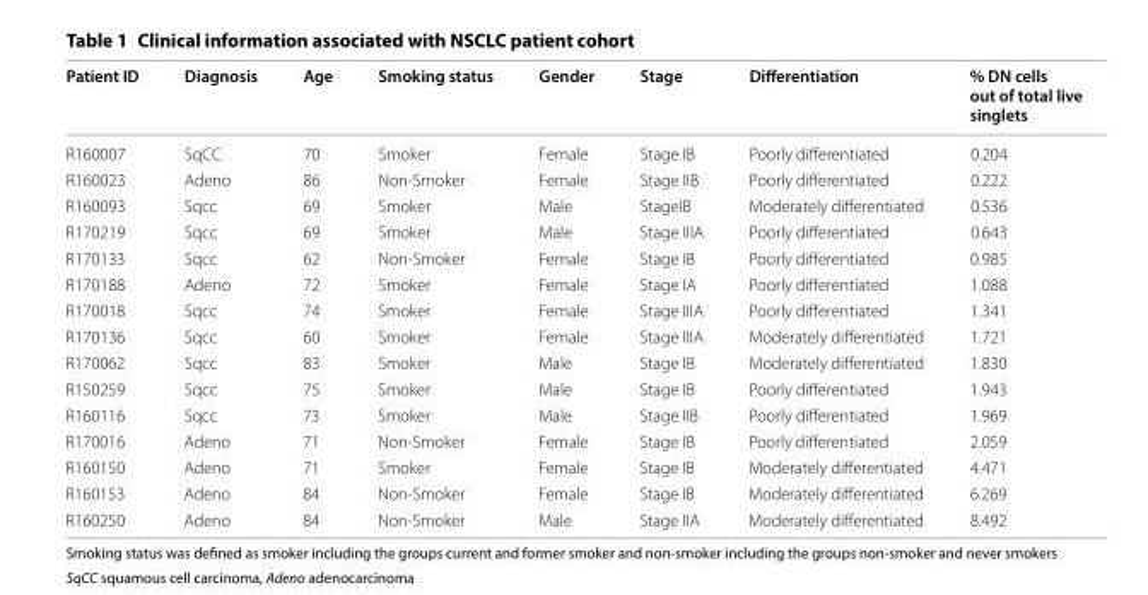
<table><thead><tr><td>Patient ID</td><td>Diagnosis</td><td>Age</td><td>Smoking status</td><td>Gender</td><td>Stage</td><td>Differentiation</td><td>% DN cells out of total live singlets</td></tr></thead><tbody><tr><td>R160007</td><td>SqCC</td><td>70</td><td>Smoker</td><td>Female</td><td>Stage IB</td><td>Poorly differentiated</td><td>0.204</td></tr><tr><td>R160023</td><td>Adeno</td><td>86</td><td>Non-Smoker</td><td>Female</td><td>Stage IIB</td><td>Poorly differentiated</td><td>0.222</td></tr><tr><td>R160093</td><td>Sqcc</td><td>69</td><td>Smoker</td><td>Male</td><td>StageIB</td><td>Moderately differentiated</td><td>0.536</td></tr><tr><td>R170219</td><td>Sqcc</td><td>69</td><td>Smoker</td><td>Male</td><td>Stage IIIA</td><td>Poorly differentiated</td><td>0.643</td></tr><tr><td>R170133</td><td>Sqcc</td><td>62</td><td>Non-Smoker</td><td>Female</td><td>Stage IB</td><td>Poorly differentiated</td><td>0.985</td></tr><tr><td>R170188</td><td>Adeno</td><td>72</td><td>Smoker</td><td>Female</td><td>Stage IA</td><td>Poorly differentiated</td><td>1.088</td></tr><tr><td>R170018</td><td>Sqcc</td><td>74</td><td>Smoker</td><td>Female</td><td>Stage IIIA</td><td>Poorly differentiated</td><td>1.341</td></tr><tr><td>R170136</td><td>Sqcc</td><td>60</td><td>Smoker</td><td>Female</td><td>Stage IIIA</td><td>Moderately differentiated</td><td>1.721</td></tr><tr><td>R170062</td><td>Sqcc</td><td>83</td><td>Smoker</td><td>Male</td><td>Stage IB</td><td>Moderately differentiated</td><td>1.830</td></tr><tr><td>R150259</td><td>Sqcc</td><td>75</td><td>Smoker</td><td>Male</td><td>Stage IB</td><td>Poorly differentiated</td><td>1.943</td></tr><tr><td>R160116</td><td>Sqcc</td><td>73</td><td>Smoker</td><td>Male</td><td>Stage IIB</td><td>Poorly differentiated</td><td>1.969</td></tr><tr><td>R170016</td><td>Adeno</td><td>71</td><td>Non-Smoker</td><td>Female</td><td>Stage IB</td><td>Poorly differentiated</td><td>2.059</td></tr><tr><td>R160150</td><td>Adeno</td><td>71</td><td>Smoker</td><td>Female</td><td>Stage IB</td><td>Moderately differentiated</td><td>4.471</td></tr><tr><td>R160153</td><td>Adeno</td><td>84</td><td>Non-Smoker</td><td>Female</td><td>Stage IB</td><td>Moderately differentiated</td><td>6.269</td></tr><tr><td>R160250</td><td>Adeno</td><td>84</td><td>Non-Smoker</td><td>Male</td><td>Stage IIA</td><td>Moderately differentiated</td><td>8.492</td></tr></tbody></table>